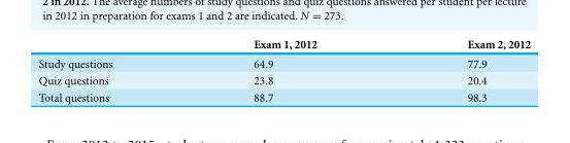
<table><thead><tr><td></td><td>Exam 1, 2012</td><td>Exam 2, 2012</td></tr></thead><tbody><tr><td>Study questions</td><td>64.9</td><td>77.9</td></tr><tr><td>Quiz questions</td><td>23.8</td><td>20.4</td></tr><tr><td>Total questions</td><td>88.7</td><td>98.3</td></tr></tbody></table>